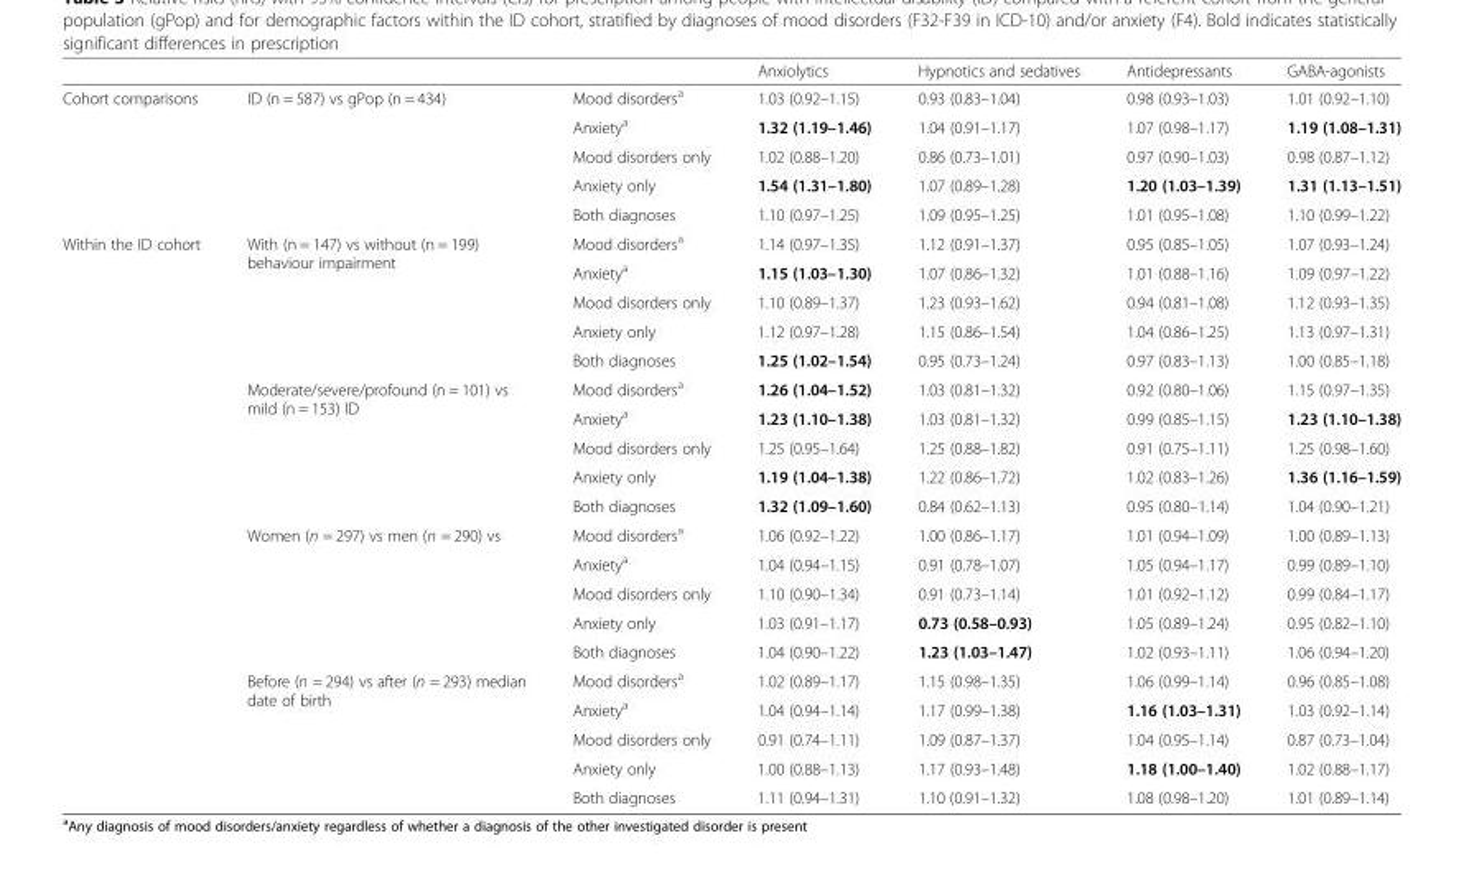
<table><thead><tr><td></td><td></td><td></td><td>Anxiolytics</td><td>Hypnotics and sedatives</td><td>Antidepressants</td><td>GABA-agonists</td></tr></thead><tbody><tr><td rowspan="5">Cohort comparisons</td><td rowspan="5">ID (n = 587) vs gPop (n = 434)</td><td>Mood disorders<sup>a</sup></td><td>1.03 (0.92–1.15)</td><td>0.93 (0.83–1.04)</td><td>0.98 (0.93–1.03)</td><td>1.01 (0.92–1.10)</td></tr><tr><td>Anxiety<sup>a</sup></td><td>1.32 (1.19–1.46)</td><td>1.04 (0.91–1.17)</td><td>1.07 (0.98–1.17)</td><td>1.19 (1.08–1.31)</td></tr><tr><td>Mood disorders only</td><td>1.02 (0.88–1.20)</td><td>0.86 (0.73–1.01)</td><td>0.97 (0.90–1.03)</td><td>0.98 (0.87–1.12)</td></tr><tr><td>Anxiety only</td><td>1.54 (1.31–1.80)</td><td>1.07 (0.89–1.28)</td><td>1.20 (1.03–1.39)</td><td>1.31 (1.13–1.51)</td></tr><tr><td>Both diagnoses</td><td>1.10 (0.97–1.25)</td><td>1.09 (0.95–1.25)</td><td>1.01 (0.95–1.08)</td><td>1.10 (0.99–1.22)</td></tr><tr><td rowspan="20">Within the ID cohort</td><td rowspan="5">With (n = 147) vs without (n = 199) behaviour impairment</td><td>Mood disorders<sup>a</sup></td><td>1.14 (0.97–1.35)</td><td>1.12 (0.91–1.37)</td><td>0.95 (0.85–1.05)</td><td>1.07 (0.93–1.24)</td></tr><tr><td>Anxiety<sup>a</sup></td><td>1.15 (1.03–1.30)</td><td>1.07 (0.86–1.32)</td><td>1.01 (0.88–1.16)</td><td>1.09 (0.97–1.22)</td></tr><tr><td>Mood disorders only</td><td>1.10 (0.89–1.37)</td><td>1.23 (0.93–1.62)</td><td>0.94 (0.81–1.08)</td><td>1.12 (0.93–1.35)</td></tr><tr><td>Anxiety only</td><td>1.12 (0.97–1.28)</td><td>1.15 (0.86–1.54)</td><td>1.04 (0.86–1.25)</td><td>1.13 (0.97–1.31)</td></tr><tr><td>Both diagnoses</td><td>1.25 (1.02–1.54)</td><td>0.95 (0.73–1.24)</td><td>0.97 (0.83–1.13)</td><td>1.00 (0.85–1.18)</td></tr><tr><td rowspan="5">Moderate/severe/profound (n = 101) vs mild (n = 153) ID</td><td>Mood disorders<sup>a</sup></td><td>1.26 (1.04–1.52)</td><td>1.03 (0.81–1.32)</td><td>0.92 (0.80–1.06)</td><td>1.15 (0.97–1.35)</td></tr><tr><td>Anxiety<sup>a</sup></td><td>1.23 (1.10–1.38)</td><td>1.03 (0.81–1.32)</td><td>0.99 (0.85–1.15)</td><td>1.23 (1.10–1.38)</td></tr><tr><td>Mood disorders only</td><td>1.25 (0.95–1.64)</td><td>1.25 (0.88–1.82)</td><td>0.91 (0.75–1.11)</td><td>1.25 (0.98–1.60)</td></tr><tr><td>Anxiety only</td><td>1.19 (1.04–1.38)</td><td>1.22 (0.86–1.72)</td><td>1.02 (0.83–1.26)</td><td>1.36 (1.16–1.59)</td></tr><tr><td>Both diagnoses</td><td>1.32 (1.09–1.60)</td><td>0.84 (0.62–1.13)</td><td>0.95 (0.80–1.14)</td><td>1.04 (0.90–1.21)</td></tr><tr><td rowspan="5">Women (n = 297) vs men (n = 290) vs</td><td>Mood disorders<sup>a</sup></td><td>1.06 (0.92–1.22)</td><td>1.00 (0.86–1.17)</td><td>1.01 (0.94–1.09)</td><td>1.00 (0.89–1.13)</td></tr><tr><td>Anxiety<sup>a</sup></td><td>1.04 (0.94–1.15)</td><td>0.91 (0.78–1.07)</td><td>1.05 (0.94–1.17)</td><td>0.99 (0.89–1.10)</td></tr><tr><td>Mood disorders only</td><td>1.10 (0.90–1.34)</td><td>0.91 (0.73–1.14)</td><td>1.01 (0.92–1.12)</td><td>0.99 (0.84–1.17)</td></tr><tr><td>Anxiety only</td><td>1.03 (0.91–1.17)</td><td>0.73 (0.58–0.93)</td><td>1.05 (0.89–1.24)</td><td>0.95 (0.82–1.10)</td></tr><tr><td>Both diagnoses</td><td>1.04 (0.90–1.22)</td><td>1.23 (1.03–1.47)</td><td>1.02 (0.93–1.11)</td><td>1.06 (0.94–1.20)</td></tr><tr><td rowspan="5">Before (n = 294) vs after (n = 293) median date of birth</td><td>Mood disorders<sup>a</sup></td><td>1.02 (0.89–1.17)</td><td>1.15 (0.98–1.35)</td><td>1.06 (0.99–1.14)</td><td>0.96 (0.85–1.08)</td></tr><tr><td>Anxiety<sup>a</sup></td><td>1.04 (0.94–1.14)</td><td>1.17 (0.99–1.38)</td><td>1.16 (1.03–1.31)</td><td>1.03 (0.92–1.14)</td></tr><tr><td>Mood disorders only</td><td>0.91 (0.74–1.11)</td><td>1.09 (0.87–1.37)</td><td>1.04 (0.95–1.14)</td><td>0.87 (0.73–1.04)</td></tr><tr><td>Anxiety only</td><td>1.00 (0.88–1.13)</td><td>1.17 (0.93–1.48)</td><td>1.18 (1.00–1.40)</td><td>1.02 (0.88–1.17)</td></tr><tr><td>Both diagnoses</td><td>1.11 (0.94–1.31)</td><td>1.10 (0.91–1.32)</td><td>1.08 (0.98–1.20)</td><td>1.01 (0.89–1.14)</td></tr></tbody></table>